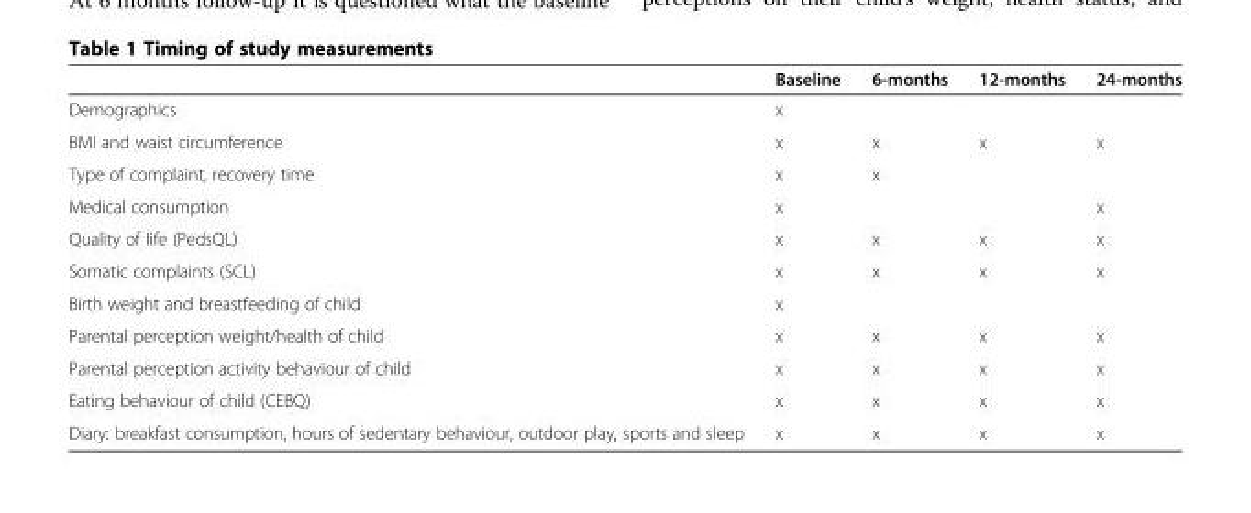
<table><thead><tr><td></td><td>Baseline</td><td>6-months</td><td>12-months</td><td>24-months</td></tr></thead><tbody><tr><td>Demographics</td><td>x</td><td></td><td></td><td></td></tr><tr><td>BMI and waist circumference</td><td>x</td><td>x</td><td>x</td><td>x</td></tr><tr><td>Type of complaint, recovery time</td><td>x</td><td>x</td><td></td><td></td></tr><tr><td>Medical consumption</td><td>x</td><td></td><td></td><td>x</td></tr><tr><td>Quality of life (PedsQL)</td><td>x</td><td>x</td><td>x</td><td>x</td></tr><tr><td>Somatic complaints (SCL)</td><td>x</td><td>x</td><td>x</td><td>x</td></tr><tr><td>Birth weight and breastfeeding of child</td><td>x</td><td></td><td></td><td></td></tr><tr><td>Parental perception weight/health of child</td><td>x</td><td>x</td><td>x</td><td>x</td></tr><tr><td>Parental perception activity behaviour of child</td><td>x</td><td>x</td><td>x</td><td>x</td></tr><tr><td>Eating behaviour of child (CEBQ)</td><td>x</td><td>x</td><td>x</td><td>x</td></tr><tr><td>Diary: breakfast consumption, hours of sedentary behaviour, outdoor play, sports and sleep</td><td>x</td><td>x</td><td>x</td><td>x</td></tr></tbody></table>